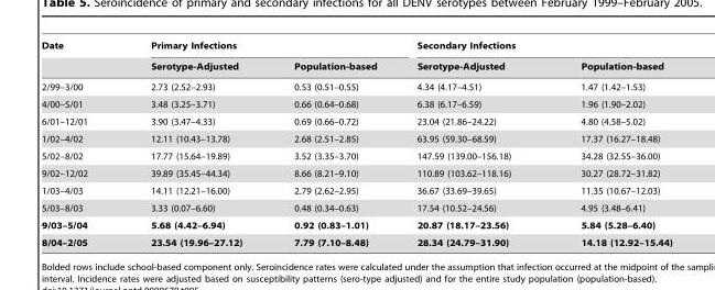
<table><thead><tr><td rowspan="2">Date</td><td colspan="2">Primary Infections</td><td colspan="2">Secondary Infections</td></tr><tr><td>Serotype-Adjusted</td><td>Population-based</td><td>Serotype-Adjusted</td><td>Population-based</td></tr></thead><tbody><tr><td>2/99–3/00</td><td>2.73 (2.52–2.93)</td><td>0.53 (0.51–0.55)</td><td>4.34 (4.17–4.51)</td><td>1.47 (1.42–1.53)</td></tr><tr><td>4/00–5/01</td><td>3.48 (3.25–3.71)</td><td>0.66 (0.64–0.68)</td><td>6.38 (6.17–6.59)</td><td>1.96 (1.90–2.02)</td></tr><tr><td>6/01–12/01</td><td>3.90 (3.47–4.33)</td><td>0.69 (0.66–0.72)</td><td>23.04 (21.86–24.22)</td><td>4.80 (4.58–5.02)</td></tr><tr><td>1/02–4/02</td><td>12.11 (10.43–13.78)</td><td>2.68 (2.51–2.85)</td><td>63.95 (59.30–68.59)</td><td>17.37 (16.27–18.48)</td></tr><tr><td>5/02–8/02</td><td>17.77 (15.64–19.89)</td><td>3.52 (3.35–3.70)</td><td>147.59 (139.00–156.18)</td><td>34.28 (32.55–36.00)</td></tr><tr><td>9/02–12/02</td><td>39.89 (35.45–44.34)</td><td>8.66 (8.21–9.10)</td><td>110.89 (103.62–118.16)</td><td>30.27 (28.72–31.82)</td></tr><tr><td>1/03–4/03</td><td>14.11 (12.21–16.00)</td><td>2.79 (2.62–2.95)</td><td>36.67 (33.69–39.65)</td><td>11.35 (10.67–12.03)</td></tr><tr><td>5/03–8/03</td><td>3.33 (0.07–6.60)</td><td>0.48 (0.34–0.63)</td><td>17.54 (10.52–24.56)</td><td>4.95 (3.48–6.41)</td></tr><tr><td>9/03–5/04</td><td>5.68 (4.42–6.94)</td><td>0.92 (0.83–1.01)</td><td>20.87 (18.17–23.56)</td><td>5.84 (5.28–6.40)</td></tr><tr><td>8/04–2/05</td><td>23.54 (19.96–27.12)</td><td>7.79 (7.10–8.48)</td><td>28.34 (24.79–31.90)</td><td>14.18 (12.92–15.44)</td></tr></tbody></table>